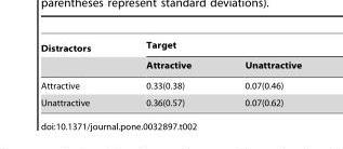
<table><thead><tr><td rowspan="2">Distractors</td><td colspan="2">Target</td></tr><tr><td>Attractive</td><td>Unattractive</td></tr></thead><tbody><tr><td>Attractive</td><td>0.33(0.38)</td><td>0.07(0.46)</td></tr><tr><td>Unattractive</td><td>0.36(0.57)</td><td>0.07(0.62)</td></tr></tbody></table>